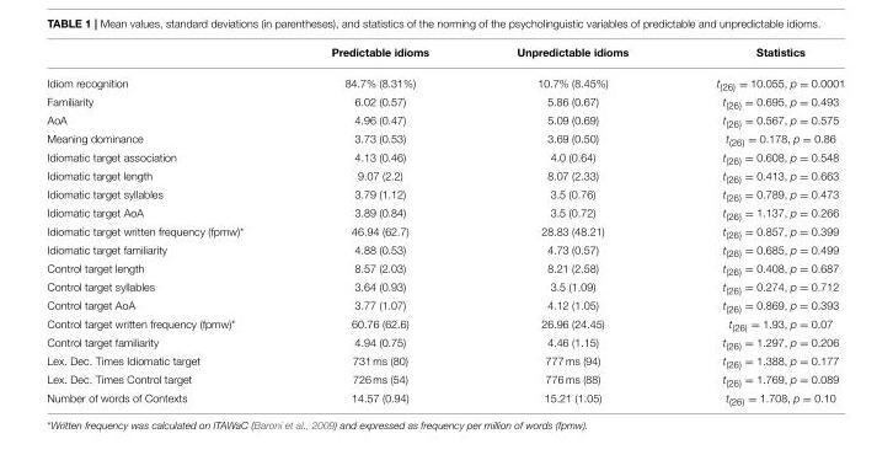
<table><thead><tr><td></td><td>Predictable idioms</td><td>Unpredictable idioms</td><td>Statistics</td></tr></thead><tbody><tr><td>Idiom recognition</td><td>84.7% (8.31%)</td><td>10.7% (8.45%)</td><td>t<sub>(26)</sub> = 10.055, p = 0.0001</td></tr><tr><td>Familiarity</td><td>6.02 (0.57)</td><td>5.86 (0.67)</td><td>t<sub>(26)</sub> = 0.695, p = 0.493</td></tr><tr><td>AoA</td><td>4.96 (0.47)</td><td>5.09 (0.69)</td><td>t<sub>(26)</sub> = 0.567, p = 0.575</td></tr><tr><td>Meaning dominance</td><td>3.73 (0.53)</td><td>3.69 (0.50)</td><td>t<sub>(26)</sub> = 0.178, p = 0.86</td></tr><tr><td>Idiomatic target association</td><td>4.13 (0.46)</td><td>4.0 (0.64)</td><td>t<sub>(26)</sub> = 0.608, p = 0.548</td></tr><tr><td>Idiomatic target length</td><td>9.07 (2.2)</td><td>8.07 (2.33)</td><td>t<sub>(26)</sub> = 0.413, p = 0.663</td></tr><tr><td>Idiomatic target syllables</td><td>3.79 (1.12)</td><td>3.5 (0.76)</td><td>t<sub>(26)</sub> = 0.789, p = 0.473</td></tr><tr><td>Idiomatic target AoA</td><td>3.89 (0.84)</td><td>3.5 (0.72)</td><td>t<sub>(26)</sub> = 1.137, p = 0.266</td></tr><tr><td>Idiomatic target written frequency (fpmw)*</td><td>46.94 (62.7)</td><td>28.83 (48.21)</td><td>t<sub>(26)</sub> = 0.857, p = 0.399</td></tr><tr><td>Idiomatic target familiarity</td><td>4.88 (0.53)</td><td>4.73 (0.57)</td><td>t<sub>(26)</sub> = 0.685, p = 0.499</td></tr><tr><td>Control target length</td><td>8.57 (2.03)</td><td>8.21 (2.58)</td><td>t<sub>(26)</sub> = 0.408, p = 0.687</td></tr><tr><td>Control target syllables</td><td>3.64 (0.93)</td><td>3.5 (1.09)</td><td>t<sub>(26)</sub> = 0.274, p = 0.712</td></tr><tr><td>Control target AoA</td><td>3.77 (1.07)</td><td>4.12 (1.05)</td><td>t<sub>(26)</sub> = 0.869, p = 0.393</td></tr><tr><td>Control target written frequency (fpmw)*</td><td>60.76 (62.6)</td><td>26.96 (24.45)</td><td>t<sub>(26)</sub> = 1.93, p = 0.07</td></tr><tr><td>Control target familiarity</td><td>4.94 (0.75)</td><td>4.46 (1.15)</td><td>t<sub>(26)</sub> = 1.297, p = 0.206</td></tr><tr><td>Lex. Dec. Times Idiomatic target</td><td>731 ms (80)</td><td>777 ms (94)</td><td>t<sub>(26)</sub> = 1.388, p = 0.177</td></tr><tr><td>Lex. Dec. Times Control target</td><td>726 ms (54)</td><td>776 ms (88)</td><td>t<sub>(26)</sub> = 1.769, p = 0.089</td></tr><tr><td>Number of words of Contexts</td><td>14.57 (0.94)</td><td>15.21 (1.05)</td><td>t<sub>(26)</sub> = 1.708, p = 0.10</td></tr></tbody></table>